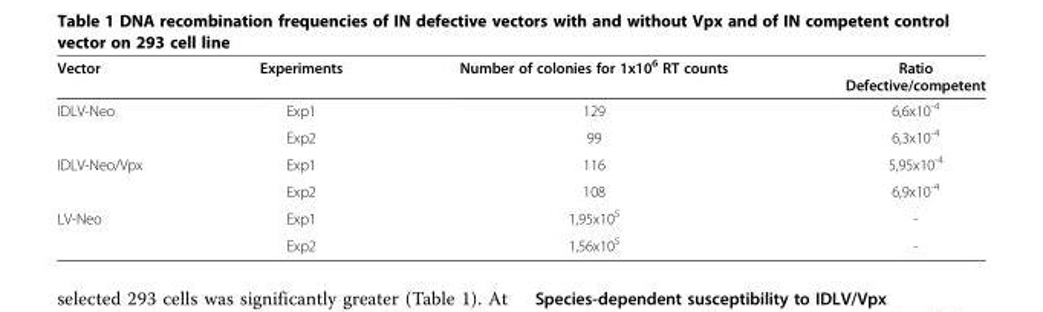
<table><thead><tr><td>Vector</td><td>Experiments</td><td>Number of colonies for 1x10<sup>6</sup> RT counts</td><td>Ratio Defective/competent</td></tr></thead><tbody><tr><td rowspan="2">IDLV-Neo</td><td>Exp1</td><td>129</td><td>6,6x10<sup>-4</sup></td></tr><tr><td>Exp2</td><td>99</td><td>6,3x10<sup>-4</sup></td></tr><tr><td rowspan="2">IDLV-Neo/Vpx</td><td>Exp1</td><td>116</td><td>5,95x10<sup>-4</sup></td></tr><tr><td>Exp2</td><td>108</td><td>6,9x10<sup>-4</sup></td></tr><tr><td rowspan="2">LV-Neo</td><td>Exp1</td><td>1,95x10<sup>5</sup></td><td>-</td></tr><tr><td>Exp2</td><td>1,56x10<sup>5</sup></td><td>-</td></tr></tbody></table>